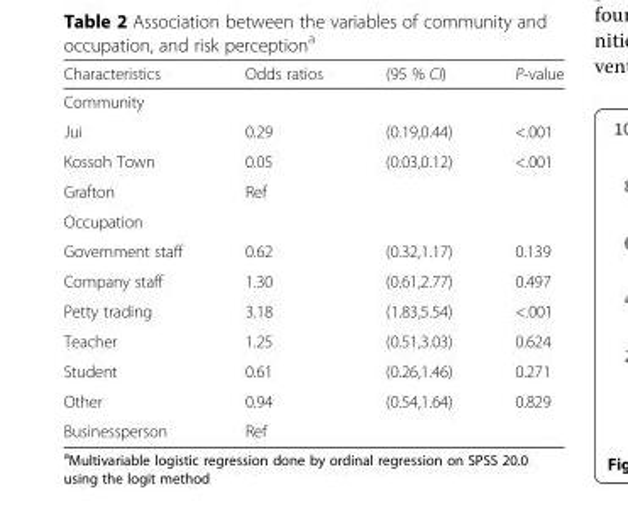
<table><thead><tr><td>Characteristics</td><td>Odds ratios</td><td>(95 % CI)</td><td>P-value</td></tr></thead><tbody><tr><td colspan="4">Community</td></tr><tr><td>Jui</td><td>0.29</td><td>(0.19,0.44)</td><td>&lt;.001</td></tr><tr><td>Kossoh Town</td><td>0.05</td><td>(0.03,0.12)</td><td>&lt;.001</td></tr><tr><td>Grafton</td><td>Ref</td><td></td><td></td></tr><tr><td colspan="4">Occupation</td></tr><tr><td>Government staff</td><td>0.62</td><td>(0.32,1.17)</td><td>0.139</td></tr><tr><td>Company staff</td><td>1.30</td><td>(0.61,2.77)</td><td>0.497</td></tr><tr><td>Petty trading</td><td>3.18</td><td>(1.83,5.54)</td><td>&lt;.001</td></tr><tr><td>Teacher</td><td>1.25</td><td>(0.51,3.03)</td><td>0.624</td></tr><tr><td>Student</td><td>0.61</td><td>(0.26,1.46)</td><td>0.271</td></tr><tr><td>Other</td><td>0.94</td><td>(0.54,1.64)</td><td>0.829</td></tr><tr><td>Businessperson</td><td>Ref</td><td></td><td></td></tr></tbody></table>